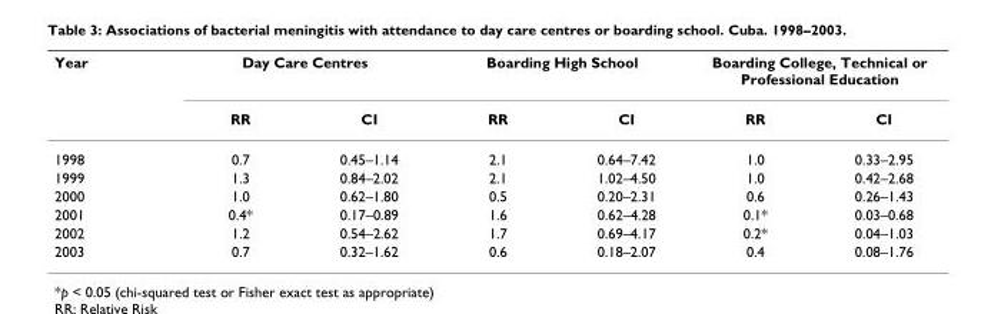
<table><thead><tr><td rowspan="2">Year</td><td colspan="2">Day Care Centres</td><td colspan="2">Boarding High School</td><td colspan="2">Boarding College, Technical or Professional Education</td></tr><tr><td>RR</td><td>CI</td><td>RR</td><td>CI</td><td>RR</td><td>CI</td></tr></thead><tbody><tr><td>1998</td><td>0.7</td><td>0.45–1.14</td><td>2.1</td><td>0.64–7.42</td><td>1.0</td><td>0.33–2.95</td></tr><tr><td>1999</td><td>1.3</td><td>0.84–2.02</td><td>2.1</td><td>1.02–4.50</td><td>1.0</td><td>0.42–2.68</td></tr><tr><td>2000</td><td>1.0</td><td>0.62–1.80</td><td>0.5</td><td>0.20–2.31</td><td>0.6</td><td>0.26–1.43</td></tr><tr><td>2001</td><td>0.4*</td><td>0.17–0.89</td><td>1.6</td><td>0.62–4.28</td><td>0.1*</td><td>0.03–0.68</td></tr><tr><td>2002</td><td>1.2</td><td>0.54–2.62</td><td>1.7</td><td>0.69–4.17</td><td>0.2*</td><td>0.04–1.03</td></tr><tr><td>2003</td><td>0.7</td><td>0.32–1.62</td><td>0.6</td><td>0.18–2.07</td><td>0.4</td><td>0.08–1.76</td></tr></tbody></table>